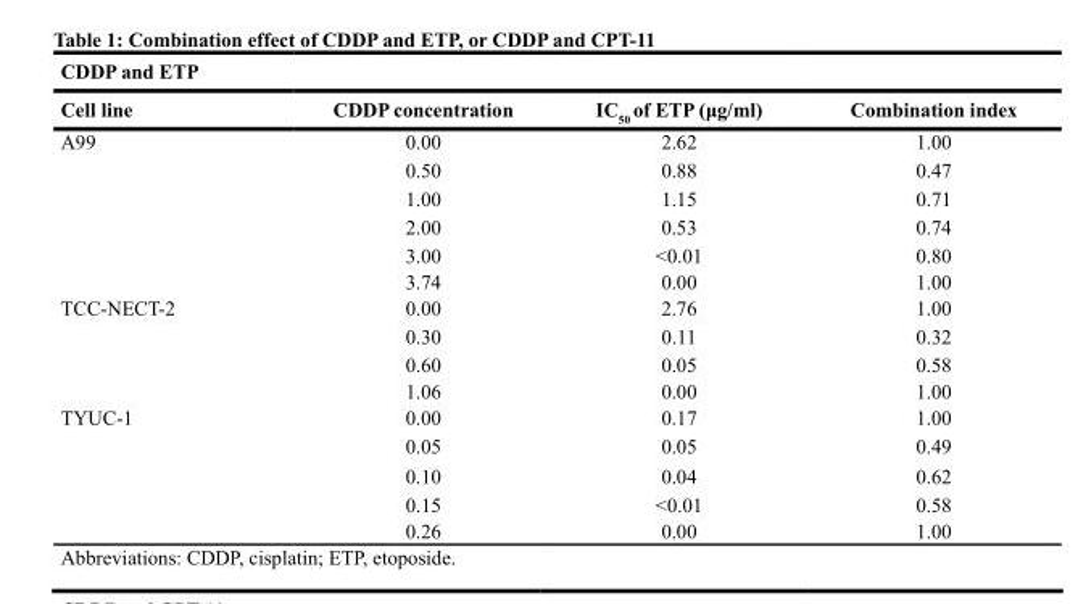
<table><thead><tr><td colspan="4">CDDP and ETP</td></tr><tr><td>Cell line</td><td>CDDP concentration</td><td>IC<sub>50</sub> of ETP (μg/ml)</td><td>Combination index</td></tr></thead><tbody><tr><td rowspan="6">A99</td><td>0.00</td><td>2.62</td><td>1.00</td></tr><tr><td>0.50</td><td>0.88</td><td>0.47</td></tr><tr><td>1.00</td><td>1.15</td><td>0.71</td></tr><tr><td>2.00</td><td>0.53</td><td>0.74</td></tr><tr><td>3.00</td><td>&lt;0.01</td><td>0.80</td></tr><tr><td>3.74</td><td>0.00</td><td>1.00</td></tr><tr><td rowspan="4">TCC-NECT-2</td><td>0.00</td><td>2.76</td><td>1.00</td></tr><tr><td>0.30</td><td>0.11</td><td>0.32</td></tr><tr><td>0.60</td><td>0.05</td><td>0.58</td></tr><tr><td>1.06</td><td>0.00</td><td>1.00</td></tr><tr><td rowspan="5">TYUC-1</td><td>0.00</td><td>0.17</td><td>1.00</td></tr><tr><td>0.05</td><td>0.05</td><td>0.49</td></tr><tr><td>0.10</td><td>0.04</td><td>0.62</td></tr><tr><td>0.15</td><td>&lt;0.01</td><td>0.58</td></tr><tr><td>0.26</td><td>0.00</td><td>1.00</td></tr></tbody></table>